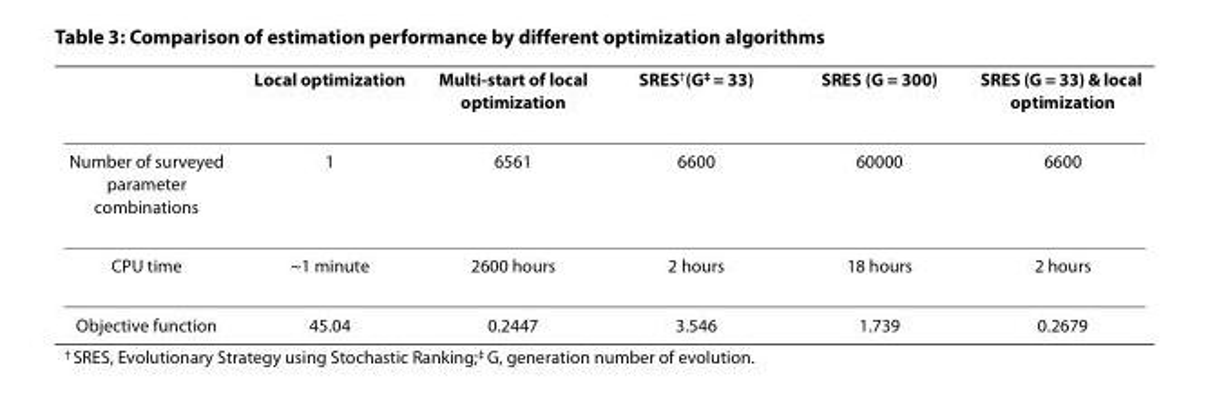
<table><thead><tr><td></td><td>Local optimization</td><td>Multi-start of local optimization</td><td>SRES<sup>†</sup>(G<sup>‡</sup> = 33)</td><td>SRES (G = 300)</td><td>SRES (G = 33) &amp; local optimization</td></tr></thead><tbody><tr><td>Number of surveyed parameter combinations</td><td>1</td><td>6561</td><td>6600</td><td>60000</td><td>6600</td></tr><tr><td>CPU time</td><td>~1 minute</td><td>2600 hours</td><td>2 hours</td><td>18 hours</td><td>2 hours</td></tr><tr><td>Objective function</td><td>45.04</td><td>0.2447</td><td>3.546</td><td>1.739</td><td>0.2679</td></tr></tbody></table>